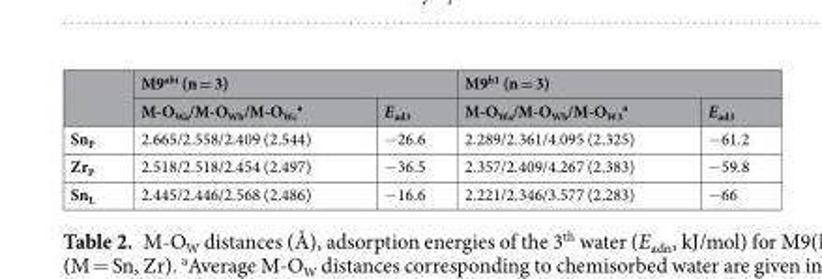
<table><thead><tr><td rowspan="2"></td><td colspan="2">M9<sup>abi</sup> (n = 3)</td><td colspan="2">M9<sup>h1</sup> (n = 3)</td></tr><tr><td>M-O<sub>Wa</sub>/M-O<sub>Wb</sub>/M-O<sub>Wc</sub> <sup>a</sup></td><td>E<sub>ad3</sub></td><td>M-O<sub>Wa</sub>/M-O<sub>Wb</sub>/M-O<sub>W3</sub> <sup>a</sup></td><td>E<sub>ad3</sub></td></tr></thead><tbody><tr><td>Sn<sub>P</sub></td><td>2.665/2.558/2.409 (2.544)</td><td>−26.6</td><td>2.289/2.361/4.095 (2.325)</td><td>−61.2</td></tr><tr><td>Zr<sub>P</sub></td><td>2.518/2.518/2.454 (2.497)</td><td>−36.5</td><td>2.357/2.409/4.267 (2.383)</td><td>−59.8</td></tr><tr><td>Sn<sub>L</sub></td><td>2.445/2.446/2.568 (2.486)</td><td>−16.6</td><td>2.221/2.346/3.577 (2.283)</td><td>−66</td></tr></tbody></table>